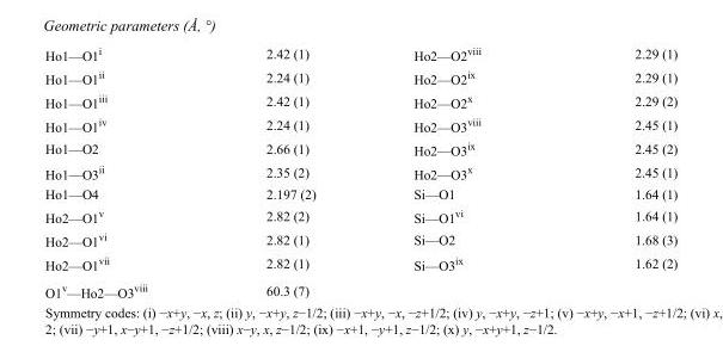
<table><tbody><tr><td>Ho1—O1<sup>i</sup></td><td>2.42 (1)</td><td>Ho2—O2<sup>viii</sup></td><td>2.29 (1)</td></tr><tr><td>Ho1—O1<sup>ii</sup></td><td>2.24 (1)</td><td>Ho2—O2<sup>ix</sup></td><td>2.29 (1)</td></tr><tr><td>Ho1—O1<sup>iii</sup></td><td>2.42 (1)</td><td>Ho2—O2<sup>x</sup></td><td>2.29 (2)</td></tr><tr><td>Ho1—O1<sup>iv</sup></td><td>2.24 (1)</td><td>Ho2—O3<sup>viii</sup></td><td>2.45 (1)</td></tr><tr><td>Ho1—O2</td><td>2.66 (1)</td><td>Ho2—O3<sup>ix</sup></td><td>2.45 (2)</td></tr><tr><td>Ho1—O3<sup>ii</sup></td><td>2.35 (2)</td><td>Ho2—O3<sup>x</sup></td><td>2.45 (1)</td></tr><tr><td>Ho1—O4</td><td>2.197 (2)</td><td>Si—O1</td><td>1.64 (1)</td></tr><tr><td>Ho2—O1<sup>v</sup></td><td>2.82 (2)</td><td>Si—O1<sup>vi</sup></td><td>1.64 (1)</td></tr><tr><td>Ho2—O1<sup>vi</sup></td><td>2.82 (1)</td><td>Si—O2</td><td>1.68 (3)</td></tr><tr><td>Ho2—O1<sup>vii</sup></td><td>2.82 (1)</td><td>Si—O3<sup>ix</sup></td><td>1.62 (2)</td></tr><tr><td>O1<sup>v</sup>—Ho2—O3<sup>viii</sup></td><td>60.3 (7)</td><td></td><td></td></tr></tbody></table>